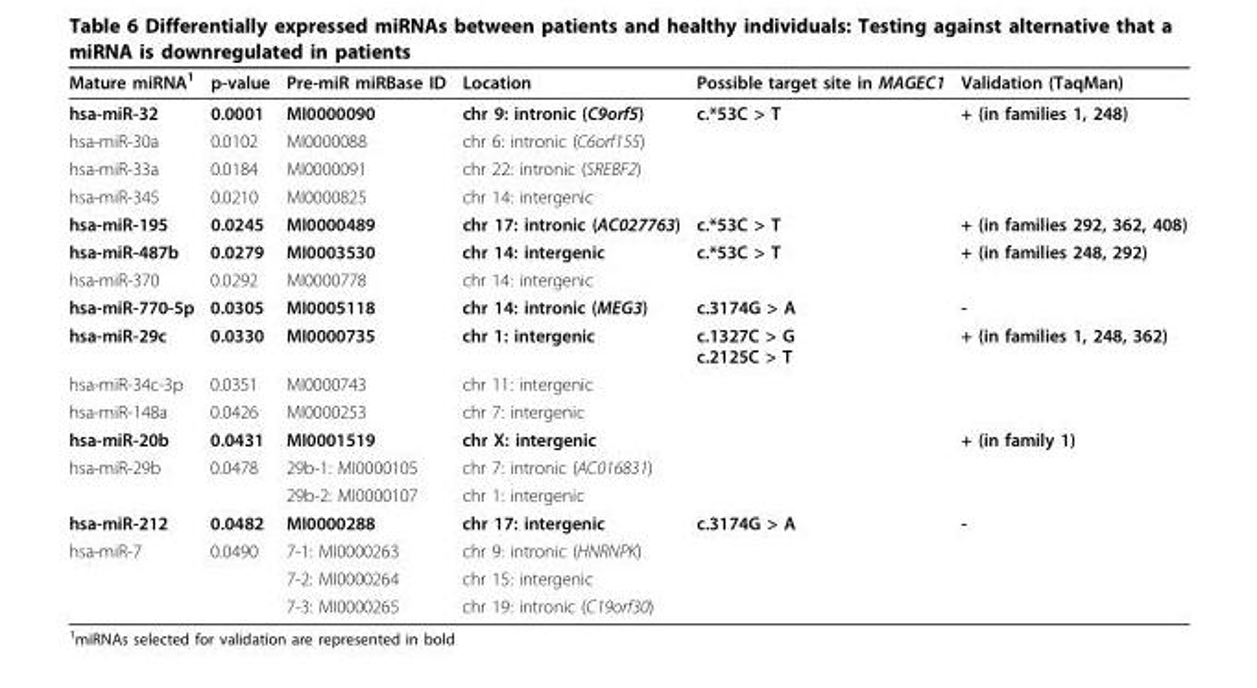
<table><thead><tr><td>Mature miRNA<sup>1</sup></td><td>p-value</td><td>Pre-miR miRBase ID</td><td>Location</td><td>Possible target site in MAGEC1</td><td>Validation (TaqMan)</td></tr></thead><tbody><tr><td>hsa-miR-32</td><td>0.0001</td><td>MI0000090</td><td>chr 9: intronic (C9orf5)</td><td>c.*53C &gt; T</td><td>+ (in families 1, 248)</td></tr><tr><td>hsa-miR-30a</td><td>0.0102</td><td>MI0000088</td><td>chr 6: intronic (C6orf155)</td><td></td><td></td></tr><tr><td>hsa-miR-33a</td><td>0.0184</td><td>MI0000091</td><td>chr 22: intronic (SREBF2)</td><td></td><td></td></tr><tr><td>hsa-miR-345</td><td>0.0210</td><td>MI0000825</td><td>chr 14: intergenic</td><td></td><td></td></tr><tr><td>hsa-miR-195</td><td>0.0245</td><td>MI0000489</td><td>chr 17: intronic (AC027763)</td><td>c.*53C &gt; T</td><td>+ (in families 292, 362, 408)</td></tr><tr><td>hsa-miR-487b</td><td>0.0279</td><td>MI0003530</td><td>chr 14: intergenic</td><td>c.*53C &gt; T</td><td>+ (in families 248, 292)</td></tr><tr><td>hsa-miR-370</td><td>0.0292</td><td>MI0000778</td><td>chr 14: intergenic</td><td></td><td></td></tr><tr><td>hsa-miR-770-5p</td><td>0.0305</td><td>MI0005118</td><td>chr 14: intronic (MEG3)</td><td>c.3174G &gt; A</td><td>-</td></tr><tr><td>hsa-miR-29c</td><td>0.0330</td><td>MI0000735</td><td>chr 1: intergenic</td><td>c.1327C &gt; G c.2125C &gt; T</td><td>+ (in families 1, 248, 362)</td></tr><tr><td>hsa-miR-34c-3p</td><td>0.0351</td><td>MI0000743</td><td>chr 11: intergenic</td><td></td><td></td></tr><tr><td>hsa-miR-148a</td><td>0.0426</td><td>MI0000253</td><td>chr 7: intergenic</td><td></td><td></td></tr><tr><td>hsa-miR-20b</td><td>0.0431</td><td>MI0001519</td><td>chr X: intergenic</td><td></td><td>+ (in family 1)</td></tr><tr><td rowspan="2">hsa-miR-29b</td><td>0.0478</td><td>29b-1: MI0000105</td><td>chr 7: intronic (AC016831)</td><td></td><td></td></tr><tr><td></td><td>29b-2: MI0000107</td><td>chr 1: intergenic</td><td></td><td></td></tr><tr><td>hsa-miR-212</td><td>0.0482</td><td>MI0000288</td><td>chr 17: intergenic</td><td>c.3174G &gt; A</td><td>-</td></tr><tr><td rowspan="3">hsa-miR-7</td><td>0.0490</td><td>7-1: MI0000263</td><td>chr 9: intronic (HNRNPK)</td><td></td><td></td></tr><tr><td></td><td>7-2: MI0000264</td><td>chr 15: intergenic</td><td></td><td></td></tr><tr><td></td><td>7-3: MI0000265</td><td>chr 19: intronic (C19orf30)</td><td></td><td></td></tr></tbody></table>